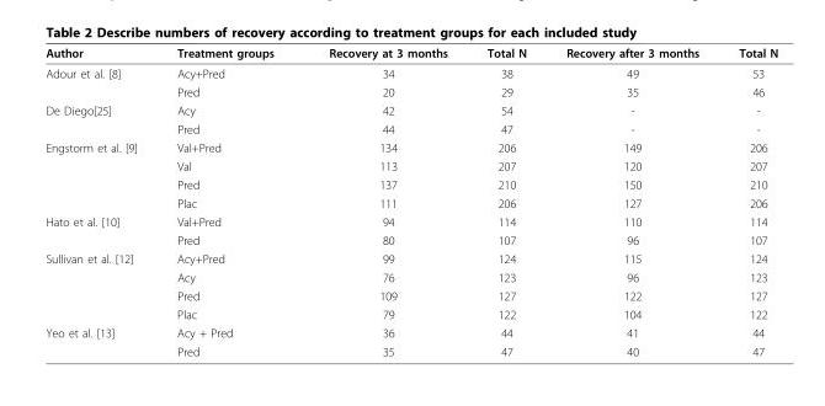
<table><thead><tr><td>Author</td><td>Treatment groups</td><td>Recovery at 3 months</td><td>Total N</td><td>Recovery after 3 months</td><td>Total N</td></tr></thead><tbody><tr><td rowspan="2">Adour et al. [8]</td><td>Acy+Pred</td><td>34</td><td>38</td><td>49</td><td>53</td></tr><tr><td>Pred</td><td>20</td><td>29</td><td>35</td><td>46</td></tr><tr><td rowspan="2">De Diego[25]</td><td>Acy</td><td>42</td><td>54</td><td>-</td><td>-</td></tr><tr><td>Pred</td><td>44</td><td>47</td><td>-</td><td>-</td></tr><tr><td rowspan="4">Engstorm et al. [9]</td><td>Val+Pred</td><td>134</td><td>206</td><td>149</td><td>206</td></tr><tr><td>Val</td><td>113</td><td>207</td><td>120</td><td>207</td></tr><tr><td>Pred</td><td>137</td><td>210</td><td>150</td><td>210</td></tr><tr><td>Plac</td><td>111</td><td>206</td><td>127</td><td>206</td></tr><tr><td rowspan="2">Hato et al. [10]</td><td>Val+Pred</td><td>94</td><td>114</td><td>110</td><td>114</td></tr><tr><td>Pred</td><td>80</td><td>107</td><td>96</td><td>107</td></tr><tr><td rowspan="4">Sullivan et al. [12]</td><td>Acy+Pred</td><td>99</td><td>124</td><td>115</td><td>124</td></tr><tr><td>Acy</td><td>76</td><td>123</td><td>96</td><td>123</td></tr><tr><td>Pred</td><td>109</td><td>127</td><td>122</td><td>127</td></tr><tr><td>Plac</td><td>79</td><td>122</td><td>104</td><td>122</td></tr><tr><td rowspan="2">Yeo et al. [13]</td><td>Acy + Pred</td><td>36</td><td>44</td><td>41</td><td>44</td></tr><tr><td>Pred</td><td>35</td><td>47</td><td>40</td><td>47</td></tr></tbody></table>